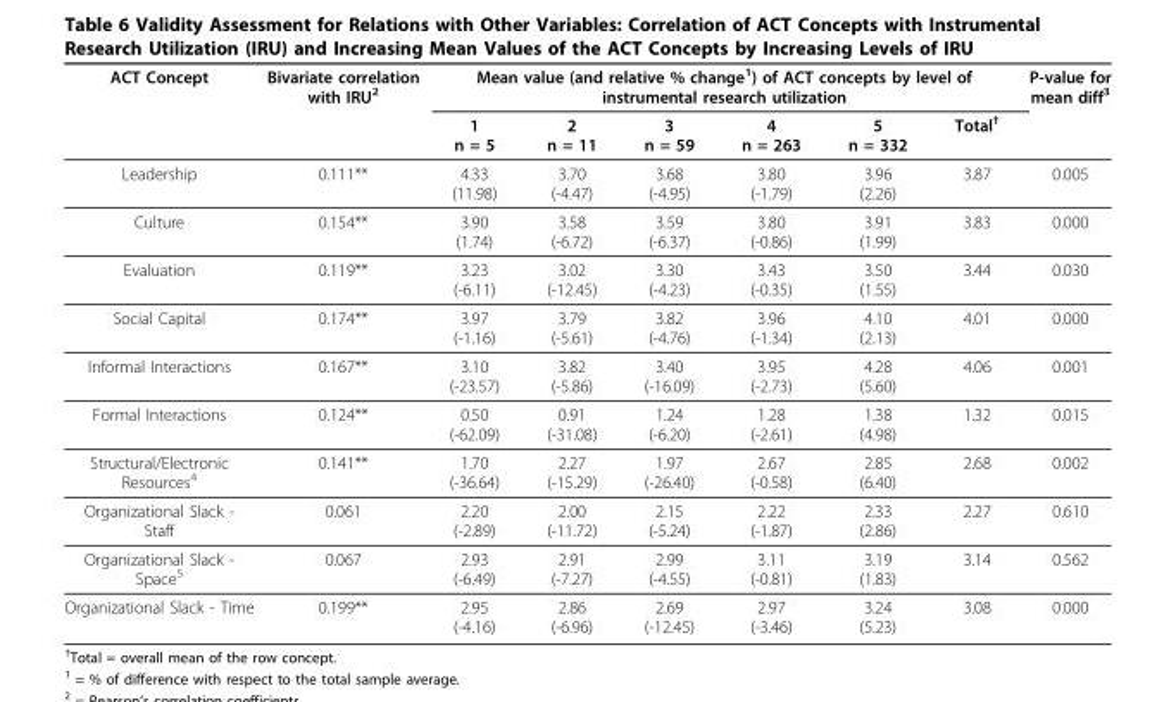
<table><thead><tr><td rowspan="2">ACT Concept</td><td rowspan="2">Bivariate correlation with IRU<sup>2</sup></td><td colspan="6">Mean value (and relative % change<sup>1</sup>) of ACT concepts by level of instrumental research utilization</td><td rowspan="2">P-value for mean diff<sup>3</sup></td></tr><tr><td>1 n = 5</td><td>2 n = 11</td><td>3 n = 59</td><td>4 n = 263</td><td>5 n = 332</td><td>Total<sup>†</sup></td></tr></thead><tbody><tr><td>Leadership</td><td>0.111**</td><td>4.33 (11.98)</td><td>3.70 (-4.47)</td><td>3.68 (-4.95)</td><td>3.80 (-1.79)</td><td>3.96 (2.26)</td><td>3.87</td><td>0.005</td></tr><tr><td>Culture</td><td>0.154**</td><td>3.90 (1.74)</td><td>3.58 (-6.72)</td><td>3.59 (-6.37)</td><td>3.80 (-0.86)</td><td>3.91 (1.99)</td><td>3.83</td><td>0.000</td></tr><tr><td>Evaluation</td><td>0.119**</td><td>3.23 (-6.11)</td><td>3.02 (-12.45)</td><td>3.30 (-4.23)</td><td>3.43 (-0.35)</td><td>3.50 (1.55)</td><td>3.44</td><td>0.030</td></tr><tr><td>Social Capital</td><td>0.174**</td><td>3.97 (-1.16)</td><td>3.79 (-5.61)</td><td>3.82 (-4.76)</td><td>3.96 (-1.34)</td><td>4.10 (2.13)</td><td>4.01</td><td>0.000</td></tr><tr><td>Informal Interactions</td><td>0.167**</td><td>3.10 (-23.57)</td><td>3.82 (-5.86)</td><td>3.40 (-16.09)</td><td>3.95 (-2.73)</td><td>4.28 (5.60)</td><td>4.06</td><td>0.001</td></tr><tr><td>Formal Interactions</td><td>0.124**</td><td>0.50 (-62.09)</td><td>0.91 (-31.08)</td><td>1.24 (-6.20)</td><td>1.28 (-2.61)</td><td>1.38 (4.98)</td><td>1.32</td><td>0.015</td></tr><tr><td>Structural/Electronic Resources<sup>4</sup></td><td>0.141**</td><td>1.70 (-36.64)</td><td>2.27 (-15.29)</td><td>1.97 (-26.40)</td><td>2.67 (-0.58)</td><td>2.85 (6.40)</td><td>2.68</td><td>0.002</td></tr><tr><td>Organizational Slack - Staff</td><td>0.061</td><td>2.20 (-2.89)</td><td>2.00 (-11.72)</td><td>2.15 (-5.24)</td><td>2.22 (-1.87)</td><td>2.33 (2.86)</td><td>2.27</td><td>0.610</td></tr><tr><td>Organizational Slack - Space<sup>5</sup></td><td>0.067</td><td>2.93 (-6.49)</td><td>2.91 (-7.27)</td><td>2.99 (-4.55)</td><td>3.11 (-0.81)</td><td>3.19 (1.83)</td><td>3.14</td><td>0.562</td></tr><tr><td>Organizational Slack - Time</td><td>0.199**</td><td>2.95 (-4.16)</td><td>2.86 (-6.96)</td><td>2.69 (-12.45)</td><td>2.97 (-3.46)</td><td>3.24 (5.23)</td><td>3.08</td><td>0.000</td></tr></tbody></table>